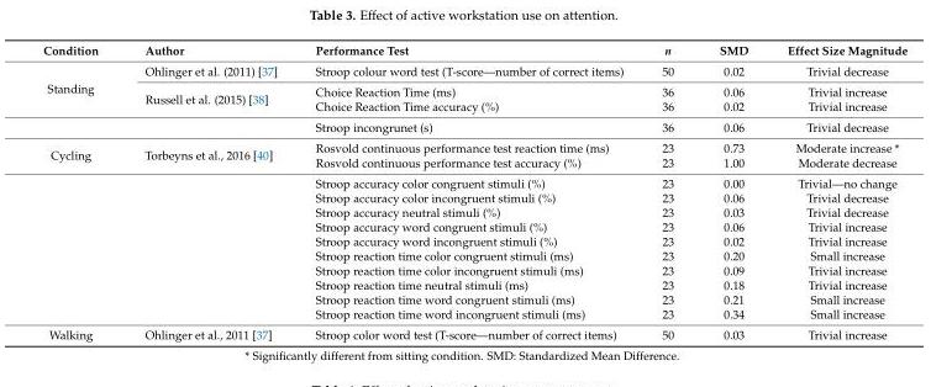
<table><thead><tr><td>Condition</td><td>Author</td><td>Performance Test</td><td>n</td><td>SMD</td><td>Effect Size Magnitude</td></tr></thead><tbody><tr><td rowspan="4">Standing</td><td>Ohlinger et al. (2011) [37]</td><td>Stroop colour word test (T-score—number of correct items)</td><td>50</td><td>0.02</td><td>Trivial decrease</td></tr><tr><td rowspan="2">Russell et al. (2015) [38]</td><td>Choice Reaction Time (ms)</td><td>36</td><td>0.06</td><td>Trivial increase</td></tr><tr><td>Choice Reaction Time accuracy (%)</td><td>36</td><td>0.02</td><td>Trivial increase</td></tr><tr><td></td><td>Stroop incongrunet (s)</td><td>36</td><td>0.06</td><td>Trivial decrease</td></tr><tr><td rowspan="12">Cycling</td><td rowspan="2">Torbeyns et al., 2016 [40]</td><td>Rosvold continuous performance test reaction time (ms)</td><td>23</td><td>0.73</td><td>Moderate increase *</td></tr><tr><td>Rosvold continuous performance test accuracy (%)</td><td>23</td><td>1.00</td><td>Moderate decrease</td></tr><tr><td></td><td>Stroop accuracy color congruent stimuli (%)</td><td>23</td><td>0.00</td><td>Trivial—no change</td></tr><tr><td></td><td>Stroop accuracy color incongruent stimuli (%)</td><td>23</td><td>0.06</td><td>Trivial decrease</td></tr><tr><td></td><td>Stroop accuracy neutral stimuli (%)</td><td>23</td><td>0.03</td><td>Trivial decrease</td></tr><tr><td></td><td>Stroop accuracy word congruent stimuli (%)</td><td>23</td><td>0.06</td><td>Trivial increase</td></tr><tr><td></td><td>Stroop accuracy word incongruent stimuli (%)</td><td>23</td><td>0.02</td><td>Trivial increase</td></tr><tr><td></td><td>Stroop reaction time color congruent stimuli (ms)</td><td>23</td><td>0.20</td><td>Small increase</td></tr><tr><td></td><td>Stroop reaction time color incongruent stimuli (ms)</td><td>23</td><td>0.09</td><td>Trivial increase</td></tr><tr><td></td><td>Stroop reaction time neutral stimuli (ms)</td><td>23</td><td>0.18</td><td>Trivial increase</td></tr><tr><td></td><td>Stroop reaction time word congruent stimuli (ms)</td><td>23</td><td>0.21</td><td>Small increase</td></tr><tr><td></td><td>Stroop reaction time word incongruent stimuli (ms)</td><td>23</td><td>0.34</td><td>Small increase</td></tr><tr><td>Walking</td><td>Ohlinger et al., 2011 [37]</td><td>Stroop color word test (T-score—number of correct items)</td><td>50</td><td>0.03</td><td>Trivial increase</td></tr></tbody></table>